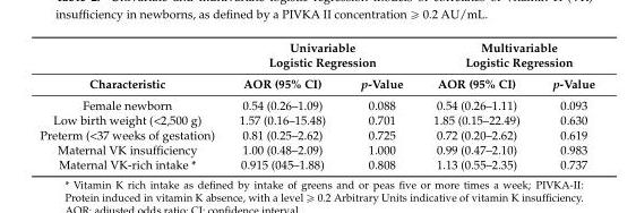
<table><thead><tr><td rowspan="2">Characteristic</td><td colspan="2">Univariable Logistic Regression</td><td colspan="2">Multivariable Logistic Regression</td></tr><tr><td>AOR (95% CI)</td><td>p-Value</td><td>AOR (95% CI)</td><td>p-Value</td></tr></thead><tbody><tr><td>Female newborn</td><td>0.54 (0.26–1.09)</td><td>0.088</td><td>0.54 (0.26–1.11)</td><td>0.093</td></tr><tr><td>Low birth weight (&lt;2,500 g)</td><td>1.57 (0.16–15.48)</td><td>0.701</td><td>1.85 (0.15–22.49)</td><td>0.630</td></tr><tr><td>Preterm (&lt;37 weeks of gestation)</td><td>0.81 (0.25–2.62)</td><td>0.725</td><td>0.72 (0.20–2.62)</td><td>0.619</td></tr><tr><td>Maternal VK insufficiency</td><td>1.00 (0.48–2.09)</td><td>1.000</td><td>0.99 (0.47–2.10)</td><td>0.983</td></tr><tr><td>Maternal VK-rich intake *</td><td>0.915 (045–1.88)</td><td>0.808</td><td>1.13 (0.55–2.35)</td><td>0.737</td></tr></tbody></table>